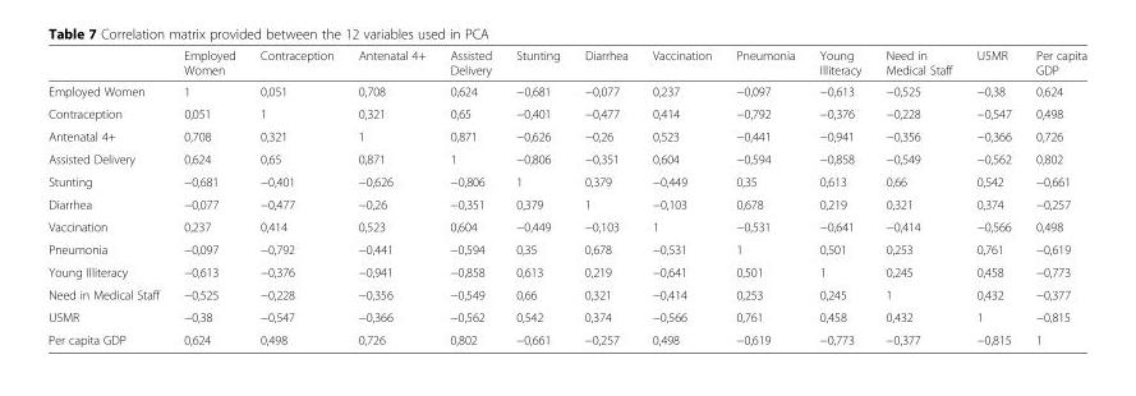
<table><thead><tr><td></td><td>Employed Women</td><td>Contraception</td><td>Antenatal 4+</td><td>Assisted Delivery</td><td>Stunting</td><td>Diarrhea</td><td>Vaccination</td><td>Pneumonia</td><td>Young Illiteracy</td><td>Need in Medical Staff</td><td>U5MR</td><td>Per capita GDP</td></tr></thead><tbody><tr><td>Employed Women</td><td>1</td><td>0,051</td><td>0,708</td><td>0,624</td><td>−0,681</td><td>−0,077</td><td>0,237</td><td>−0,097</td><td>−0,613</td><td>−0,525</td><td>−0,38</td><td>0,624</td></tr><tr><td>Contraception</td><td>0,051</td><td>1</td><td>0,321</td><td>0,65</td><td>−0,401</td><td>−0,477</td><td>0,414</td><td>−0,792</td><td>−0,376</td><td>−0,228</td><td>−0,547</td><td>0,498</td></tr><tr><td>Antenatal 4+</td><td>0,708</td><td>0,321</td><td>1</td><td>0,871</td><td>−0,626</td><td>−0,26</td><td>0,523</td><td>−0,441</td><td>−0,941</td><td>−0,356</td><td>−0,366</td><td>0,726</td></tr><tr><td>Assisted Delivery</td><td>0,624</td><td>0,65</td><td>0,871</td><td>1</td><td>−0,806</td><td>−0,351</td><td>0,604</td><td>−0,594</td><td>−0,858</td><td>−0,549</td><td>−0,562</td><td>0,802</td></tr><tr><td>Stunting</td><td>−0,681</td><td>−0,401</td><td>−0,626</td><td>−0,806</td><td>1</td><td>0,379</td><td>−0,449</td><td>0,35</td><td>0,613</td><td>0,66</td><td>0,542</td><td>−0,661</td></tr><tr><td>Diarrhea</td><td>−0,077</td><td>−0,477</td><td>−0,26</td><td>−0,351</td><td>0,379</td><td>1</td><td>−0,103</td><td>0,678</td><td>0,219</td><td>0,321</td><td>0,374</td><td>−0,257</td></tr><tr><td>Vaccination</td><td>0,237</td><td>0,414</td><td>0,523</td><td>0,604</td><td>−0,449</td><td>−0,103</td><td>1</td><td>−0,531</td><td>−0,641</td><td>−0,414</td><td>−0,566</td><td>0,498</td></tr><tr><td>Pneumonia</td><td>−0,097</td><td>−0,792</td><td>−0,441</td><td>−0,594</td><td>0,35</td><td>0,678</td><td>−0,531</td><td>1</td><td>0,501</td><td>0,253</td><td>0,761</td><td>−0,619</td></tr><tr><td>Young Illiteracy</td><td>−0,613</td><td>−0,376</td><td>−0,941</td><td>−0,858</td><td>0,613</td><td>0,219</td><td>−0,641</td><td>0,501</td><td>1</td><td>0,245</td><td>0,458</td><td>−0,773</td></tr><tr><td>Need in Medical Staff</td><td>−0,525</td><td>−0,228</td><td>−0,356</td><td>−0,549</td><td>0,66</td><td>0,321</td><td>−0,414</td><td>0,253</td><td>0,245</td><td>1</td><td>0,432</td><td>−0,377</td></tr><tr><td>U5MR</td><td>−0,38</td><td>−0,547</td><td>−0,366</td><td>−0,562</td><td>0,542</td><td>0,374</td><td>−0,566</td><td>0,761</td><td>0,458</td><td>0,432</td><td>1</td><td>−0,815</td></tr><tr><td>Per capita GDP</td><td>0,624</td><td>0,498</td><td>0,726</td><td>0,802</td><td>−0,661</td><td>−0,257</td><td>0,498</td><td>−0,619</td><td>−0,773</td><td>−0,377</td><td>−0,815</td><td>1</td></tr></tbody></table>